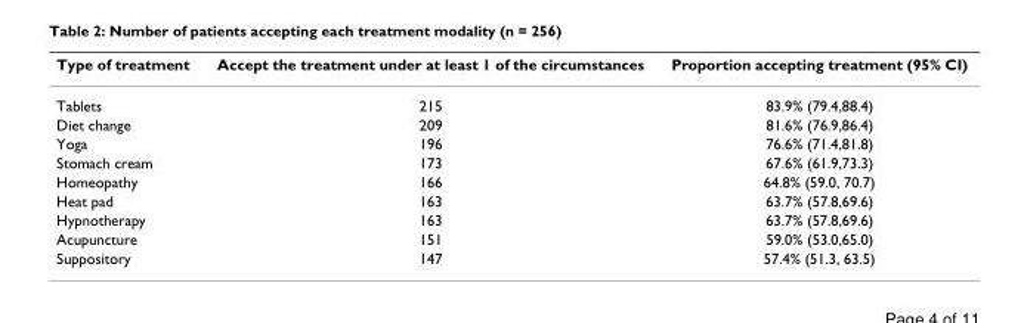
<table><thead><tr><td>Type of treatment</td><td>Accept the treatment under at least 1 of the circumstances</td><td>Proportion accepting treatment (95% CI)</td></tr></thead><tbody><tr><td>Tablets</td><td>215</td><td>83.9% (79.4,88.4)</td></tr><tr><td>Diet change</td><td>209</td><td>81.6% (76.9,86.4)</td></tr><tr><td>Yoga</td><td>196</td><td>76.6% (71.4,81.8)</td></tr><tr><td>Stomach cream</td><td>173</td><td>67.6% (61.9,73.3)</td></tr><tr><td>Homeopathy</td><td>166</td><td>64.8% (59.0, 70.7)</td></tr><tr><td>Heat pad</td><td>163</td><td>63.7% (57.8,69.6)</td></tr><tr><td>Hypnotherapy</td><td>163</td><td>63.7% (57.8,69.6)</td></tr><tr><td>Acupuncture</td><td>151</td><td>59.0% (53.0,65.0)</td></tr><tr><td>Suppository</td><td>147</td><td>57.4% (51.3, 63.5)</td></tr></tbody></table>